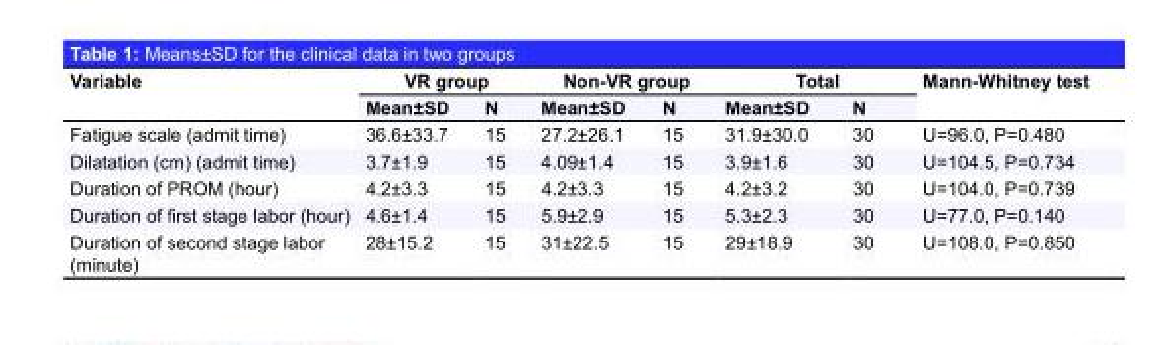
<table><thead><tr><td rowspan="2">Variable</td><td colspan="2">VR group</td><td colspan="2">Non-VR group</td><td colspan="2">Total</td><td rowspan="2">Mann-Whitney test</td></tr><tr><td>Mean±SD</td><td>N</td><td>Mean±SD</td><td>N</td><td>Mean±SD</td><td>N</td></tr></thead><tbody><tr><td>Fatigue scale (admit time)</td><td>36.6±33.7</td><td>15</td><td>27.2±26.1</td><td>15</td><td>31.9±30.0</td><td>30</td><td>U=96.0, P=0.480</td></tr><tr><td>Dilatation (cm) (admit time)</td><td>3.7±1.9</td><td>15</td><td>4.09±1.4</td><td>15</td><td>3.9±1.6</td><td>30</td><td>U=104.5, P=0.734</td></tr><tr><td>Duration of PROM (hour)</td><td>4.2±3.3</td><td>15</td><td>4.2±3.3</td><td>15</td><td>4.2±3.2</td><td>30</td><td>U=104.0, P=0.739</td></tr><tr><td>Duration of first stage labor (hour)</td><td>4.6±1.4</td><td>15</td><td>5.9±2.9</td><td>15</td><td>5.3±2.3</td><td>30</td><td>U=77.0, P=0.140</td></tr><tr><td>Duration of second stage labor (minute)</td><td>28±15.2</td><td>15</td><td>31±22.5</td><td>15</td><td>29±18.9</td><td>30</td><td>U=108.0, P=0.850</td></tr></tbody></table>